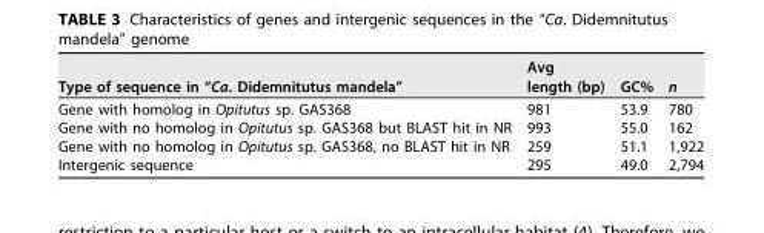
<table><thead><tr><td>Type of sequence in “Ca. Didemnitutus mandela”</td><td>Avg length (bp)</td><td>GC%</td><td>n</td></tr></thead><tbody><tr><td>Gene with homolog in Opitutus sp. GAS368</td><td>981</td><td>53.9</td><td>780</td></tr><tr><td>Gene with no homolog in Opitutus sp. GAS368 but BLAST hit in NR</td><td>993</td><td>55.0</td><td>162</td></tr><tr><td>Gene with no homolog in Opitutus sp. GAS368, no BLAST hit in NR</td><td>259</td><td>51.1</td><td>1,922</td></tr><tr><td>Intergenic sequence</td><td>295</td><td>49.0</td><td>2,794</td></tr></tbody></table>